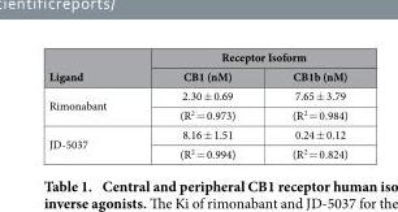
<table><thead><tr><td rowspan="2">Ligand</td><td colspan="2">Receptor Isoform</td></tr><tr><td>CB1 (nM)</td><td>CB1b (nM)</td></tr></thead><tbody><tr><td rowspan="2">Rimonabant</td><td>2.30 ± 0.69</td><td>7.65 ± 3.79</td></tr><tr><td>(R<sup>2</sup> = 0.973)</td><td>(R<sup>2</sup> = 0.984)</td></tr><tr><td rowspan="2">JD-5037</td><td>8.16 ± 1.51</td><td>0.24 ± 0.12</td></tr><tr><td>(R<sup>2</sup> = 0.994)</td><td>(R<sup>2</sup> = 0.824)</td></tr></tbody></table>